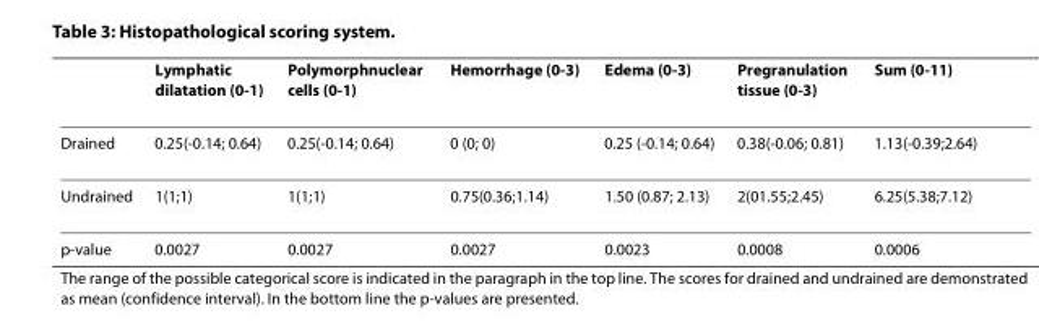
<table><thead><tr><td></td><td>Lymphatic dilatation (0-1)</td><td>Polymorphnuclear cells (0-1)</td><td>Hemorrhage (0-3)</td><td>Edema (0-3)</td><td>Pregranulation tissue (0-3)</td><td>Sum (0-11)</td></tr></thead><tbody><tr><td>Drained</td><td>0.25(-0.14; 0.64)</td><td>0.25(-0.14; 0.64)</td><td>0 (0; 0)</td><td>0.25 (-0.14; 0.64)</td><td>0.38(-0.06; 0.81)</td><td>1.13(-0.39;2.64)</td></tr><tr><td>Undrained</td><td>1(1;1)</td><td>1(1;1)</td><td>0.75(0.36;1.14)</td><td>1.50 (0.87; 2.13)</td><td>2(01.55;2.45)</td><td>6.25(5.38;7.12)</td></tr><tr><td>p-value</td><td>0.0027</td><td>0.0027</td><td>0.0027</td><td>0.0023</td><td>0.0008</td><td>0.0006</td></tr></tbody></table>